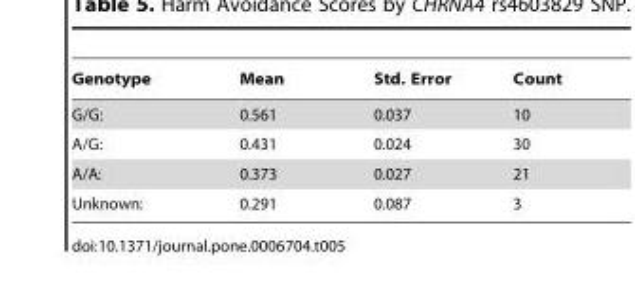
<table><thead><tr><td>Genotype</td><td>Mean</td><td>Std. Error</td><td>Count</td></tr></thead><tbody><tr><td>G/G:</td><td>0.561</td><td>0.037</td><td>10</td></tr><tr><td>A/G:</td><td>0.431</td><td>0.024</td><td>30</td></tr><tr><td>A/A:</td><td>0.373</td><td>0.027</td><td>21</td></tr><tr><td>Unknown:</td><td>0.291</td><td>0.087</td><td>3</td></tr></tbody></table>